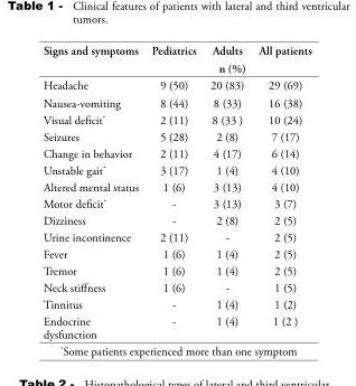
<table><thead><tr><td rowspan="2">Signs and symptoms</td><td>Pediatrics</td><td>Adults</td><td>All patients</td></tr><tr><td colspan="3">n (%)</td></tr></thead><tbody><tr><td>Headache</td><td>9 (50)</td><td>20 (83)</td><td>29 (69)</td></tr><tr><td>Nausea-vomiting</td><td>8 (44)</td><td>8 (33)</td><td>16 (38)</td></tr><tr><td>Visual deficit*</td><td>2 (11)</td><td>8 (33 )</td><td>10 (24)</td></tr><tr><td>Seizures</td><td>5 (28)</td><td>2 (8)</td><td>7 (17)</td></tr><tr><td>Change in behavior</td><td>2 (11)</td><td>4 (17)</td><td>6 (14)</td></tr><tr><td>Unstable gait*</td><td>3 (17)</td><td>1 (4)</td><td>4 (10)</td></tr><tr><td>Altered mental status</td><td>1 (6)</td><td>3 (13)</td><td>4 (10)</td></tr><tr><td>Motor deficit*</td><td>-</td><td>3 (13)</td><td>3 (7)</td></tr><tr><td>Dizziness</td><td>-</td><td>2 (8)</td><td>2 (5)</td></tr><tr><td>Urine incontinence</td><td>2 (11)</td><td>-</td><td>2 (5)</td></tr><tr><td>Fever</td><td>1 (6)</td><td>1 (4)</td><td>2 (5)</td></tr><tr><td>Tremor</td><td>1 (6)</td><td>1 (4)</td><td>2 (5)</td></tr><tr><td>Neck stiffness</td><td>1 (6)</td><td>-</td><td>1 (5)</td></tr><tr><td>Tinnitus</td><td>-</td><td>1 (4)</td><td>1 (2)</td></tr><tr><td>Endocrine dysfunction</td><td>-</td><td>1 (4)</td><td>1 (2 )</td></tr></tbody></table>